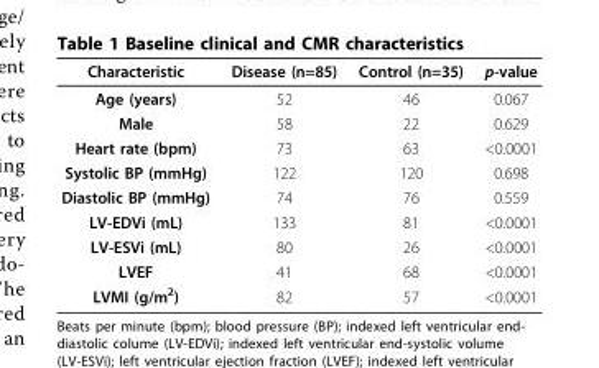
<table><thead><tr><td>Characteristic</td><td>Disease (n=85)</td><td>Control (n=35)</td><td>p-value</td></tr></thead><tbody><tr><td>Age (years)</td><td>52</td><td>46</td><td>0.067</td></tr><tr><td>Male</td><td>58</td><td>22</td><td>0.629</td></tr><tr><td>Heart rate (bpm)</td><td>73</td><td>63</td><td>&lt;0.0001</td></tr><tr><td>Systolic BP (mmHg)</td><td>122</td><td>120</td><td>0.698</td></tr><tr><td>Diastolic BP (mmHg)</td><td>74</td><td>76</td><td>0.559</td></tr><tr><td>LV-EDVi (mL)</td><td>133</td><td>81</td><td>&lt;0.0001</td></tr><tr><td>LV-ESVi (mL)</td><td>80</td><td>26</td><td>&lt;0.0001</td></tr><tr><td>LVEF</td><td>41</td><td>68</td><td>&lt;0.0001</td></tr><tr><td>LVMI (g/m<sup>2</sup>)</td><td>82</td><td>57</td><td>&lt;0.0001</td></tr></tbody></table>